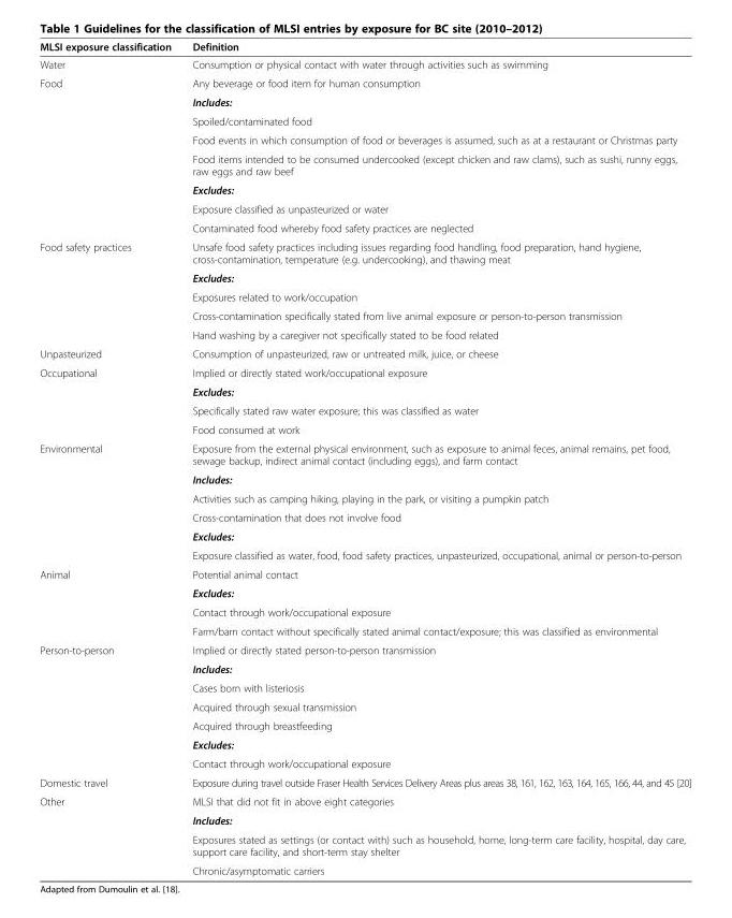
<table><thead><tr><td>MLSI exposure classification</td><td>Definition</td></tr></thead><tbody><tr><td>Water</td><td>Consumption or physical contact with water through activities such as swimming</td></tr><tr><td rowspan="8">Food</td><td>Any beverage or food item for human consumption</td></tr><tr><td>Includes:</td></tr><tr><td>Spoiled/contaminated food</td></tr><tr><td>Food events in which consumption of food or beverages is assumed, such as at a restaurant or Christmas party</td></tr><tr><td>Food items intended to be consumed undercooked (except chicken and raw clams), such as sushi, runny eggs, raw eggs and raw beef</td></tr><tr><td>Excludes:</td></tr><tr><td>Exposure classified as unpasteurized or water</td></tr><tr><td>Contaminated food whereby food safety practices are neglected</td></tr><tr><td rowspan="5">Food safety practices</td><td>Unsafe food safety practices including issues regarding food handling, food preparation, hand hygiene, cross-contamination, temperature (e.g. undercooking), and thawing meat</td></tr><tr><td>Excludes:</td></tr><tr><td>Exposures related to work/occupation</td></tr><tr><td>Cross-contamination specifically stated from live animal exposure or person-to-person transmission</td></tr><tr><td>Hand washing by a caregiver not specifically stated to be food related</td></tr><tr><td>Unpasteurized</td><td>Consumption of unpasteurized, raw or untreated milk, juice, or cheese</td></tr><tr><td rowspan="4">Occupational</td><td>Implied or directly stated work/occupational exposure</td></tr><tr><td>Excludes:</td></tr><tr><td>Specifically stated raw water exposure; this was classified as water</td></tr><tr><td>Food consumed at work</td></tr><tr><td rowspan="6">Environmental</td><td>Exposure from the external physical environment, such as exposure to animal feces, animal remains, pet food, sewage backup, indirect animal contact (including eggs), and farm contact</td></tr><tr><td>Includes:</td></tr><tr><td>Activities such as camping hiking, playing in the park, or visiting a pumpkin patch</td></tr><tr><td>Cross-contamination that does not involve food</td></tr><tr><td>Excludes:</td></tr><tr><td>Exposure classified as water, food, food safety practices, unpasteurized, occupational, animal or person-to-person</td></tr><tr><td rowspan="4">Animal</td><td>Potential animal contact</td></tr><tr><td>Excludes:</td></tr><tr><td>Contact through work/occupational exposure</td></tr><tr><td>Farm/barn contact without specifically stated animal contact/exposure; this was classified as environmental</td></tr><tr><td rowspan="7">Person-to-person</td><td>Implied or directly stated person-to-person transmission</td></tr><tr><td>Includes:</td></tr><tr><td>Cases born with listeriosis</td></tr><tr><td>Acquired through sexual transmission</td></tr><tr><td>Acquired through breastfeeding</td></tr><tr><td>Excludes:</td></tr><tr><td>Contact through work/occupational exposure</td></tr><tr><td>Domestic travel</td><td>Exposure during travel outside Fraser Health Services Delivery Areas plus areas 38, 161, 162, 163, 164, 165, 166, 44, and 45 [20]</td></tr><tr><td rowspan="4">Other</td><td>MLSI that did not fit in above eight categories</td></tr><tr><td>Includes:</td></tr><tr><td>Exposures stated as settings (or contact with) such as household, home, long-term care facility, hospital, day care, support care facility, and short-term stay shelter</td></tr><tr><td>Chronic/asymptomatic carriers</td></tr></tbody></table>